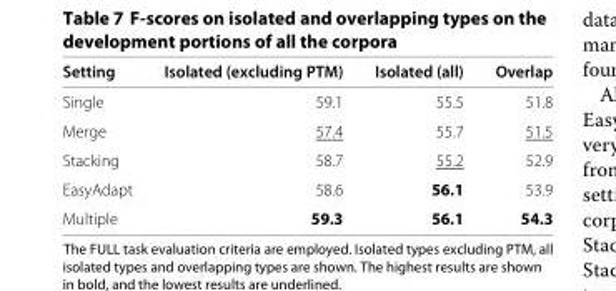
<table><thead><tr><td>Setting</td><td>Isolated (excluding PTM)</td><td>Isolated (all)</td><td>Overlap</td></tr></thead><tbody><tr><td>Single</td><td>59.1</td><td>55.5</td><td>51.8</td></tr><tr><td>Merge</td><td>57.4</td><td>55.7</td><td>51.5</td></tr><tr><td>Stacking</td><td>58.7</td><td>55.2</td><td>52.9</td></tr><tr><td>EasyAdapt</td><td>58.6</td><td>56.1</td><td>53.9</td></tr><tr><td>Multiple</td><td>59.3</td><td>56.1</td><td>54.3</td></tr></tbody></table>